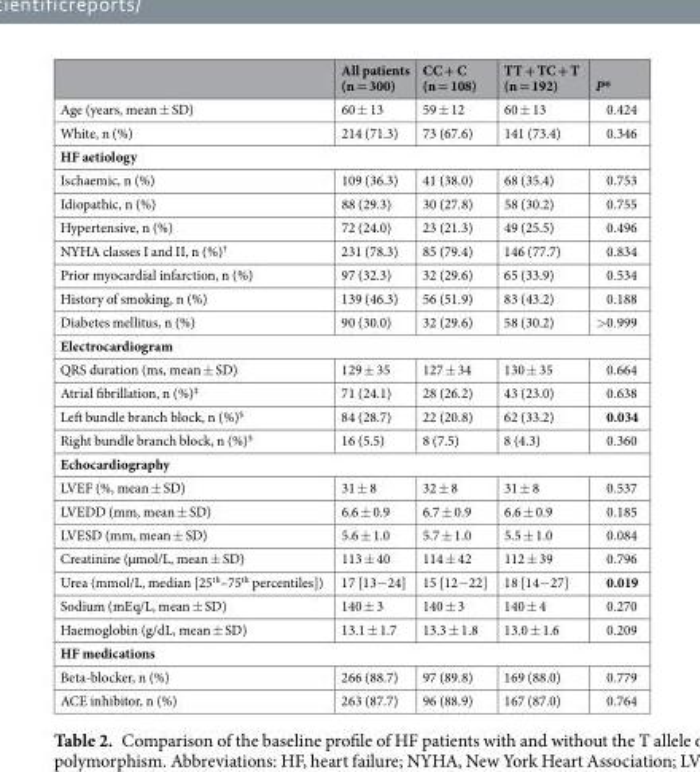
<table><thead><tr><td></td><td>All patients (n = 300)</td><td>CC + C (n = 108)</td><td>TT + TC + T (n = 192)</td><td>P*</td></tr></thead><tbody><tr><td>Age (years, mean ± SD)</td><td>60 ± 13</td><td>59 ± 12</td><td>60 ± 13</td><td>0.424</td></tr><tr><td>White, n (%)</td><td>214 (71.3)</td><td>73 (67.6)</td><td>141 (73.4)</td><td>0.346</td></tr><tr><td colspan="5">HF aetiology</td></tr><tr><td>Ischaemic, n (%)</td><td>109 (36.3)</td><td>41 (38.0)</td><td>68 (35.4)</td><td>0.753</td></tr><tr><td>Idiopathic, n (%)</td><td>88 (29.3)</td><td>30 (27.8)</td><td>58 (30.2)</td><td>0.755</td></tr><tr><td>Hypertensive, n (%)</td><td>72 (24.0)</td><td>23 (21.3)</td><td>49 (25.5)</td><td>0.496</td></tr><tr><td>NYHA classes I and II, n (%)<sup>†</sup></td><td>231 (78.3)</td><td>85 (79.4)</td><td>146 (77.7)</td><td>0.834</td></tr><tr><td>Prior myocardial infarction, n (%)</td><td>97 (32.3)</td><td>32 (29.6)</td><td>65 (33.9)</td><td>0.534</td></tr><tr><td>History of smoking, n (%)</td><td>139 (46.3)</td><td>56 (51.9)</td><td>83 (43.2)</td><td>0.188</td></tr><tr><td>Diabetes mellitus, n (%)</td><td>90 (30.0)</td><td>32 (29.6)</td><td>58 (30.2)</td><td>&gt;0.999</td></tr><tr><td colspan="5">Electrocardiogram</td></tr><tr><td>QRS duration (ms, mean ± SD)</td><td>129 ± 35</td><td>127 ± 34</td><td>130 ± 35</td><td>0.664</td></tr><tr><td>Atrial fibrillation, n (%)<sup>‡</sup></td><td>71 (24.1)</td><td>28 (26.2)</td><td>43 (23.0)</td><td>0.638</td></tr><tr><td>Left bundle branch block, n (%)<sup>§</sup></td><td>84 (28.7)</td><td>22 (20.8)</td><td>62 (33.2)</td><td>0.034</td></tr><tr><td>Right bundle branch block, n (%)<sup>§</sup></td><td>16 (5.5)</td><td>8 (7.5)</td><td>8 (4.3)</td><td>0.360</td></tr><tr><td colspan="5">Echocardiography</td></tr><tr><td>LVEF (%, mean ± SD)</td><td>31 ± 8</td><td>32 ± 8</td><td>31 ± 8</td><td>0.537</td></tr><tr><td>LVEDD (mm, mean ± SD)</td><td>6.6 ± 0.9</td><td>6.7 ± 0.9</td><td>6.6 ± 0.9</td><td>0.185</td></tr><tr><td>LVESD (mm, mean ± SD)</td><td>5.6 ± 1.0</td><td>5.7 ± 1.0</td><td>5.5 ± 1.0</td><td>0.084</td></tr><tr><td>Creatinine (µmol/L, mean ± SD)</td><td>113 ± 40</td><td>114 ± 42</td><td>112 ± 39</td><td>0.796</td></tr><tr><td>Urea (mmol/L, median [25<sup>th</sup>–75<sup>th</sup> percentiles])</td><td>17 [13−24]</td><td>15 [12−22]</td><td>18 [14−27]</td><td>0.019</td></tr><tr><td>Sodium (mEq/L, mean ± SD)</td><td>140 ± 3</td><td>140 ± 3</td><td>140 ± 4</td><td>0.270</td></tr><tr><td>Haemoglobin (g/dL, mean ± SD)</td><td>13.1 ± 1.7</td><td>13.3 ± 1.8</td><td>13.0 ± 1.6</td><td>0.209</td></tr><tr><td colspan="5">HF medications</td></tr><tr><td>Beta-blocker, n (%)</td><td>266 (88.7)</td><td>97 (89.8)</td><td>169 (88.0)</td><td>0.779</td></tr><tr><td>ACE inhibitor, n (%)</td><td>263 (87.7)</td><td>96 (88.9)</td><td>167 (87.0)</td><td>0.764</td></tr></tbody></table>